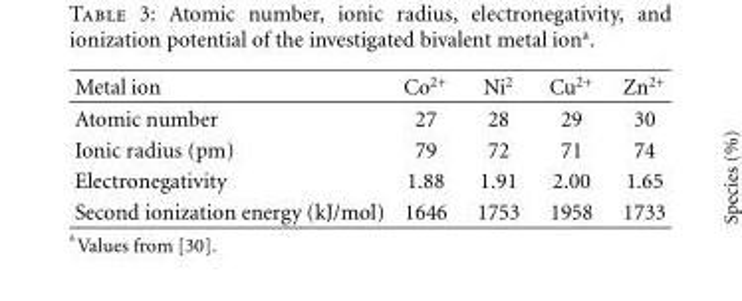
<table><thead><tr><td>Metal ion</td><td>Co<sup>2+</sup></td><td>Ni<sup>2</sup></td><td>Cu<sup>2+</sup></td><td>Zn<sup>2+</sup></td></tr></thead><tbody><tr><td>Atomic number</td><td>27</td><td>28</td><td>29</td><td>30</td></tr><tr><td>Ionic radius (pm)</td><td>79</td><td>72</td><td>71</td><td>74</td></tr><tr><td>Electronegativity</td><td>1.88</td><td>1.91</td><td>2.00</td><td>1.65</td></tr><tr><td>Second ionization energy (kJ/mol)</td><td>1646</td><td>1753</td><td>1958</td><td>1733</td></tr></tbody></table>